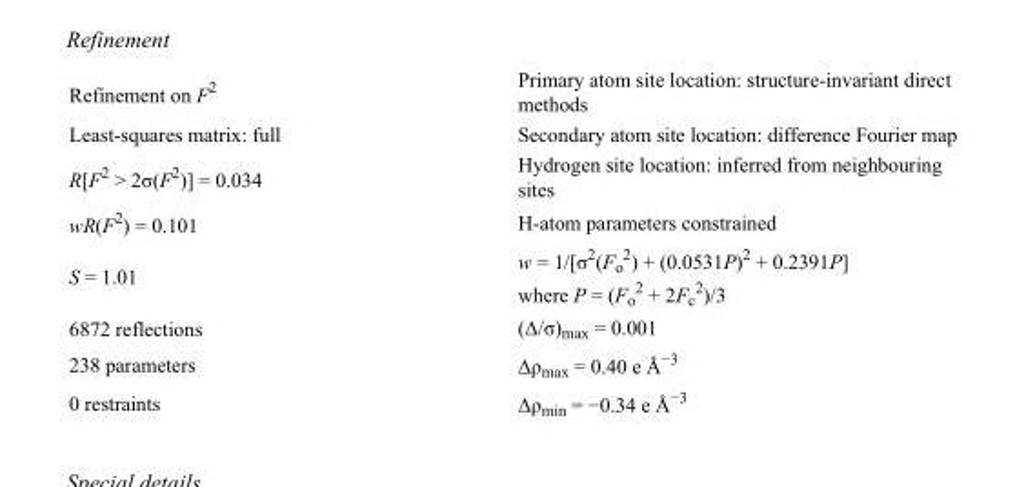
<table><tbody><tr><td>Refinement on F<sup>2</sup></td><td>Primary atom site location: structure-invariant direct methods</td></tr><tr><td>Least-squares matrix: full</td><td>Secondary atom site location: difference Fourier map</td></tr><tr><td>R[F<sup>2</sup> &gt; 2σ(F<sup>2</sup>)] = 0.034</td><td>Hydrogen site location: inferred from neighbouring sites</td></tr><tr><td>wR(F<sup>2</sup>) = 0.101</td><td>H-atom parameters constrained</td></tr><tr><td>S = 1.01</td><td>w = 1/[σ<sup>2</sup>(F<sub>o</sub> <sup>2</sup>) + (0.0531P)<sup>2</sup> + 0.2391P] where P = (F<sub>o</sub> <sup>2</sup> + 2F<sub>c</sub> <sup>2</sup>)/3</td></tr><tr><td>6872 reflections</td><td>(Δ/σ)<sub>max</sub> = 0.001</td></tr><tr><td>238 parameters</td><td>Δρ<sub>max</sub> = 0.40 e Å<sup>−3</sup></td></tr><tr><td>0 restraints</td><td>Δρ<sub>min</sub> = −0.34 e Å<sup>−3</sup></td></tr></tbody></table>